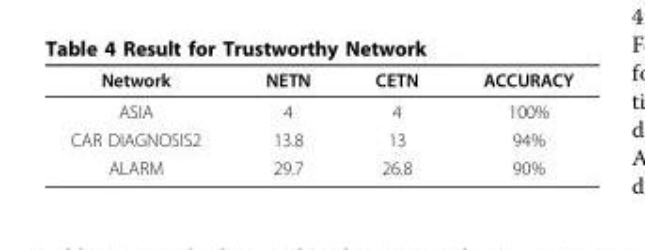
<table><thead><tr><td>Network</td><td>NETN</td><td>CETN</td><td>ACCURACY</td></tr></thead><tbody><tr><td>ASIA</td><td>4</td><td>4</td><td>100%</td></tr><tr><td>CAR DIAGNOSIS2</td><td>13.8</td><td>13</td><td>94%</td></tr><tr><td>ALARM</td><td>29.7</td><td>26.8</td><td>90%</td></tr></tbody></table>